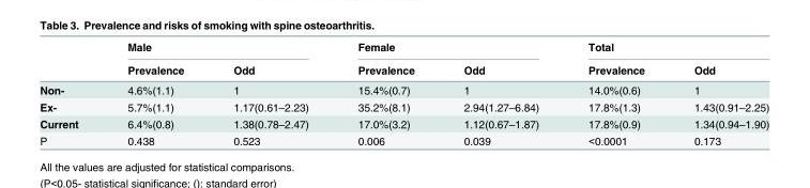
<table><thead><tr><td rowspan="2"></td><td colspan="2">Male</td><td colspan="2">Female</td><td colspan="2">Total</td></tr><tr><td>Prevalence</td><td>Odd</td><td>Prevalence</td><td>Odd</td><td>Prevalence</td><td>Odd</td></tr></thead><tbody><tr><td>Non-</td><td>4.6%(1.1)</td><td>1</td><td>15.4%(0.7)</td><td>1</td><td>14.0%(0.6)</td><td>1</td></tr><tr><td>Ex-</td><td>5.7%(1.1)</td><td>1.17(0.61–2.23)</td><td>35.2%(8.1)</td><td>2.94(1.27–6.84)</td><td>17.8%(1.3)</td><td>1.43(0.91–2.25)</td></tr><tr><td>Current</td><td>6.4%(0.8)</td><td>1.38(0.78–2.47)</td><td>17.0%(3.2)</td><td>1.12(0.67–1.87)</td><td>17.8%(0.9)</td><td>1.34(0.94–1.90)</td></tr><tr><td>P</td><td>0.438</td><td>0.523</td><td>0.006</td><td>0.039</td><td>&lt;0.0001</td><td>0.173</td></tr></tbody></table>